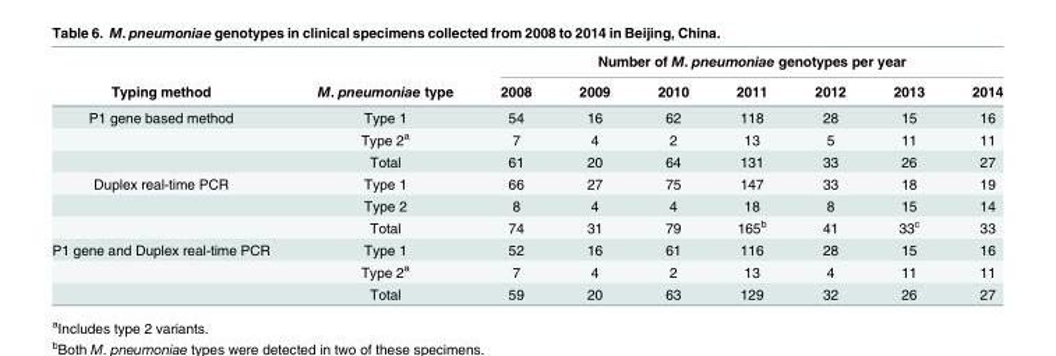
<table><thead><tr><td rowspan="2">Typing method</td><td rowspan="2">M. pneumoniae type</td><td colspan="7">Number of M. pneumoniae genotypes per year</td></tr><tr><td>2008</td><td>2009</td><td>2010</td><td>2011</td><td>2012</td><td>2013</td><td>2014</td></tr></thead><tbody><tr><td rowspan="3">P1 gene based method</td><td>Type 1</td><td>54</td><td>16</td><td>62</td><td>118</td><td>28</td><td>15</td><td>16</td></tr><tr><td>Type 2<sup>a</sup></td><td>7</td><td>4</td><td>2</td><td>13</td><td>5</td><td>11</td><td>11</td></tr><tr><td>Total</td><td>61</td><td>20</td><td>64</td><td>131</td><td>33</td><td>26</td><td>27</td></tr><tr><td rowspan="3">Duplex real-time PCR</td><td>Type 1</td><td>66</td><td>27</td><td>75</td><td>147</td><td>33</td><td>18</td><td>19</td></tr><tr><td>Type 2</td><td>8</td><td>4</td><td>4</td><td>18</td><td>8</td><td>15</td><td>14</td></tr><tr><td>Total</td><td>74</td><td>31</td><td>79</td><td>165<sup>b</sup></td><td>41</td><td>33<sup>c</sup></td><td>33</td></tr><tr><td rowspan="3">P1 gene and Duplex real-time PCR</td><td>Type 1</td><td>52</td><td>16</td><td>61</td><td>116</td><td>28</td><td>15</td><td>16</td></tr><tr><td>Type 2<sup>a</sup></td><td>7</td><td>4</td><td>2</td><td>13</td><td>4</td><td>11</td><td>11</td></tr><tr><td>Total</td><td>59</td><td>20</td><td>63</td><td>129</td><td>32</td><td>26</td><td>27</td></tr></tbody></table>